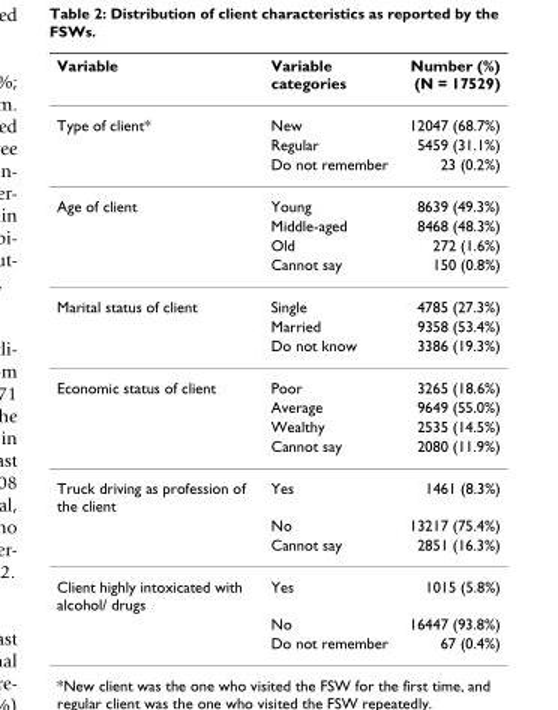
<table><thead><tr><td>Variable</td><td>Variable categories</td><td>Number (%) (N = 17529)</td></tr></thead><tbody><tr><td rowspan="3">Type of client*</td><td>New</td><td>12047 (68.7%)</td></tr><tr><td>Regular</td><td>5459 (31.1%)</td></tr><tr><td>Do not remember</td><td>23 (0.2%)</td></tr><tr><td rowspan="4">Age of client</td><td>Young</td><td>8639 (49.3%)</td></tr><tr><td>Middle-aged</td><td>8468 (48.3%)</td></tr><tr><td>Old</td><td>272 (1.6%)</td></tr><tr><td>Cannot say</td><td>150 (0.8%)</td></tr><tr><td rowspan="3">Marital status of client</td><td>Single</td><td>4785 (27.3%)</td></tr><tr><td>Married</td><td>9358 (53.4%)</td></tr><tr><td>Do not know</td><td>3386 (19.3%)</td></tr><tr><td rowspan="4">Economic status of client</td><td>Poor</td><td>3265 (18.6%)</td></tr><tr><td>Average</td><td>9649 (55.0%)</td></tr><tr><td>Wealthy</td><td>2535 (14.5%)</td></tr><tr><td>Cannot say</td><td>2080 (11.9%)</td></tr><tr><td rowspan="3">Truck driving as profession of the client</td><td>Yes</td><td>1461 (8.3%)</td></tr><tr><td>No</td><td>13217 (75.4%)</td></tr><tr><td>Cannot say</td><td>2851 (16.3%)</td></tr><tr><td rowspan="3">Client highly intoxicated with alcohol/ drugs</td><td>Yes</td><td>1015 (5.8%)</td></tr><tr><td>No</td><td>16447 (93.8%)</td></tr><tr><td>Do not remember</td><td>67 (0.4%)</td></tr></tbody></table>